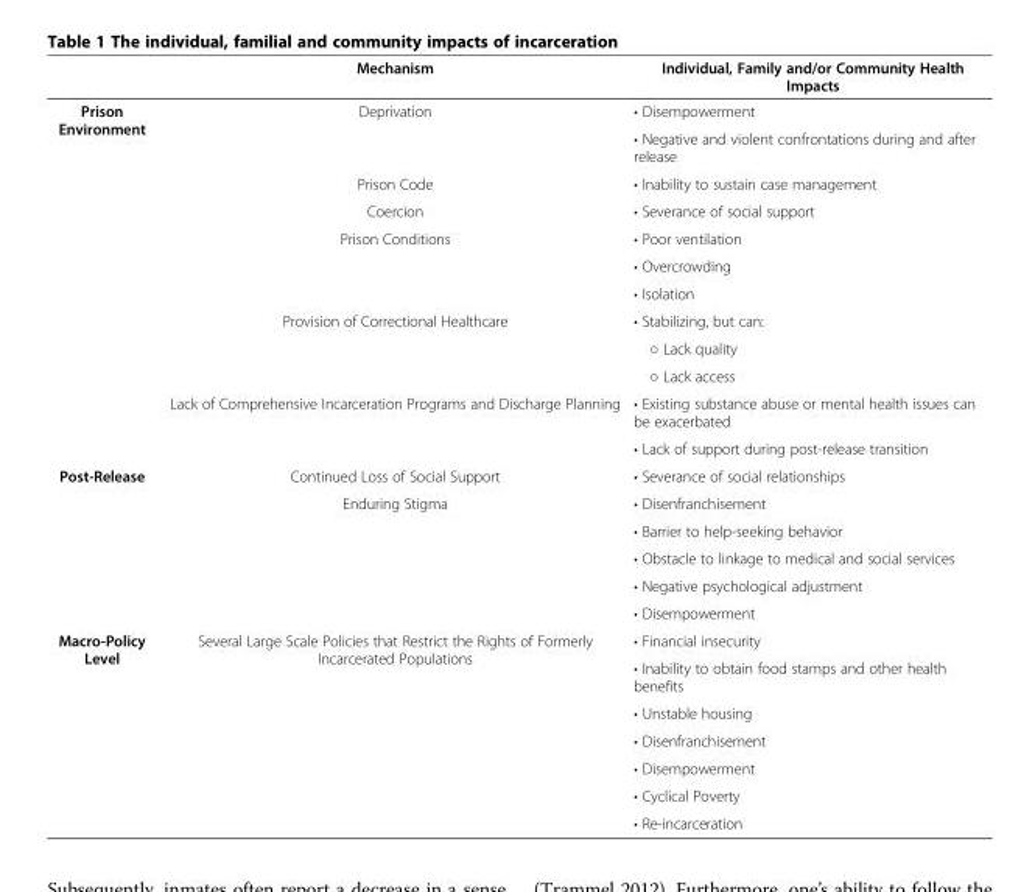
<table><thead><tr><td></td><td>Mechanism</td><td>Individual, Family and/or Community Health Impacts</td></tr></thead><tbody><tr><td rowspan="12">Prison Environment</td><td rowspan="2">Deprivation</td><td>• Disempowerment</td></tr><tr><td>• Negative and violent confrontations during and after release</td></tr><tr><td>Prison Code</td><td>• Inability to sustain case management</td></tr><tr><td>Coercion</td><td>• Severance of social support</td></tr><tr><td rowspan="3">Prison Conditions</td><td>• Poor ventilation</td></tr><tr><td>• Overcrowding</td></tr><tr><td>• Isolation</td></tr><tr><td rowspan="3">Provision of Correctional Healthcare</td><td>• Stabilizing, but can:</td></tr><tr><td>○ Lack quality</td></tr><tr><td>○ Lack access</td></tr><tr><td rowspan="2">Lack of Comprehensive Incarceration Programs and Discharge Planning</td><td>• Existing substance abuse or mental health issues can be exacerbated</td></tr><tr><td>• Lack of support during post-release transition</td></tr><tr><td rowspan="6">Post-Release</td><td>Continued Loss of Social Support</td><td>• Severance of social relationships</td></tr><tr><td rowspan="5">Enduring Stigma</td><td>• Disenfranchisement</td></tr><tr><td>• Barrier to help-seeking behavior</td></tr><tr><td>• Obstacle to linkage to medical and social services</td></tr><tr><td>• Negative psychological adjustment</td></tr><tr><td>• Disempowerment</td></tr><tr><td rowspan="7">Macro-Policy Level</td><td rowspan="7">Several Large Scale Policies that Restrict the Rights of Formerly Incarcerated Populations</td><td>• Financial insecurity</td></tr><tr><td>• Inability to obtain food stamps and other health benefits</td></tr><tr><td>• Unstable housing</td></tr><tr><td>• Disenfranchisement</td></tr><tr><td>• Disempowerment</td></tr><tr><td>• Cyclical Poverty</td></tr><tr><td>• Re-incarceration</td></tr></tbody></table>